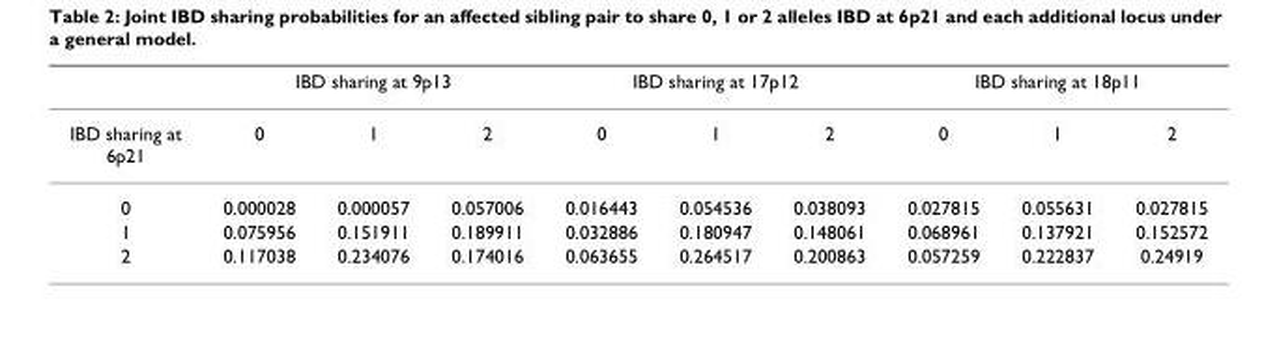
<table><thead><tr><td rowspan="2">IBD sharing at 6p21</td><td colspan="3">IBD sharing at 9p13</td><td colspan="3">IBD sharing at 17p12</td><td colspan="3">IBD sharing at 18p11</td></tr><tr><td>0</td><td>1</td><td>2</td><td>0</td><td>1</td><td>2</td><td>0</td><td>1</td><td>2</td></tr></thead><tbody><tr><td>0</td><td>0.000028</td><td>0.000057</td><td>0.057006</td><td>0.016443</td><td>0.054536</td><td>0.038093</td><td>0.027815</td><td>0.055631</td><td>0.027815</td></tr><tr><td>1</td><td>0.075956</td><td>0.151911</td><td>0.189911</td><td>0.032886</td><td>0.180947</td><td>0.148061</td><td>0.068961</td><td>0.137921</td><td>0.152572</td></tr><tr><td>2</td><td>0.117038</td><td>0.234076</td><td>0.174016</td><td>0.063655</td><td>0.264517</td><td>0.200863</td><td>0.057259</td><td>0.222837</td><td>0.24919</td></tr></tbody></table>